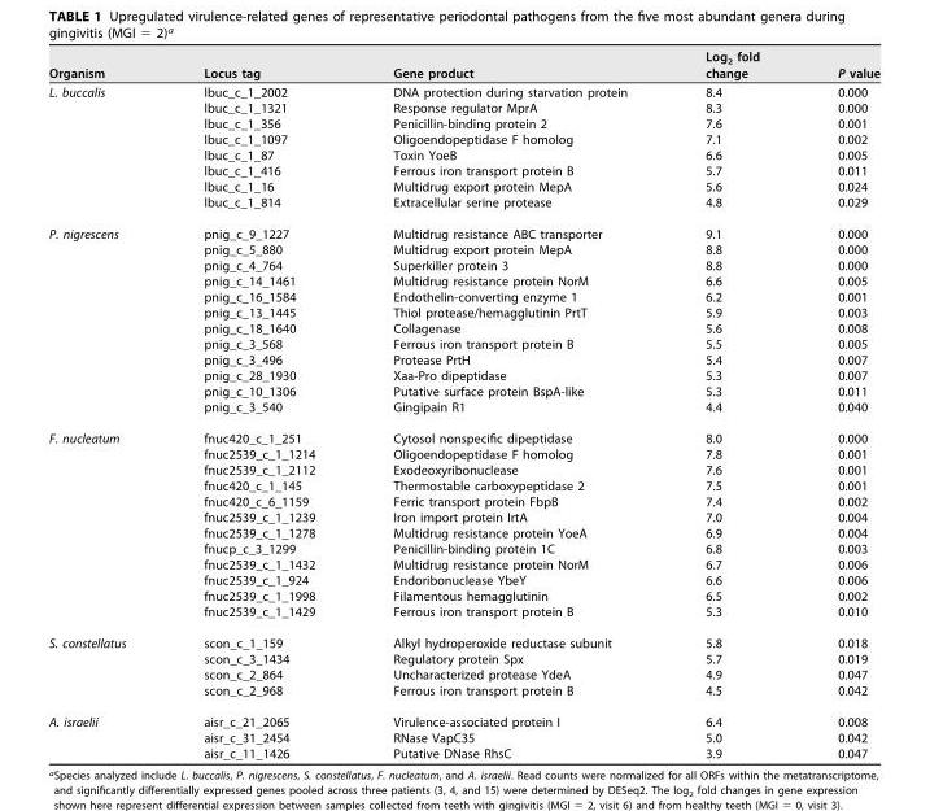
<table><thead><tr><td>Organism</td><td>Locus tag</td><td>Gene product</td><td>Log<sub>2</sub> fold change</td><td>P value</td></tr></thead><tbody><tr><td rowspan="8">L. buccalis</td><td>lbuc_c_1_2002</td><td>DNA protection during starvation protein</td><td>8.4</td><td>0.000</td></tr><tr><td>lbuc_c_1_1321</td><td>Response regulator MprA</td><td>8.3</td><td>0.000</td></tr><tr><td>lbuc_c_1_356</td><td>Penicillin-binding protein 2</td><td>7.6</td><td>0.001</td></tr><tr><td>lbuc_c_1_1097</td><td>Oligoendopeptidase F homolog</td><td>7.1</td><td>0.002</td></tr><tr><td>lbuc_c_1_87</td><td>Toxin YoeB</td><td>6.6</td><td>0.005</td></tr><tr><td>lbuc_c_1_416</td><td>Ferrous iron transport protein B</td><td>5.7</td><td>0.011</td></tr><tr><td>lbuc_c_1_16</td><td>Multidrug export protein MepA</td><td>5.6</td><td>0.024</td></tr><tr><td>lbuc_c_1_814</td><td>Extracellular serine protease</td><td>4.8</td><td>0.029</td></tr><tr><td rowspan="12">P. nigrescens</td><td>pnig_c_9_1227</td><td>Multidrug resistance ABC transporter</td><td>9.1</td><td>0.000</td></tr><tr><td>pnig_c_5_880</td><td>Multidrug export protein MepA</td><td>8.8</td><td>0.000</td></tr><tr><td>pnig_c_4_764</td><td>Superkiller protein 3</td><td>8.8</td><td>0.000</td></tr><tr><td>pnig_c_14_1461</td><td>Multidrug resistance protein NorM</td><td>6.6</td><td>0.005</td></tr><tr><td>pnig_c_16_1584</td><td>Endothelin-converting enzyme 1</td><td>6.2</td><td>0.001</td></tr><tr><td>pnig_c_13_1445</td><td>Thiol protease/hemagglutinin PrtT</td><td>5.9</td><td>0.003</td></tr><tr><td>pnig_c_18_1640</td><td>Collagenase</td><td>5.6</td><td>0.008</td></tr><tr><td>pnig_c_3_568</td><td>Ferrous iron transport protein B</td><td>5.5</td><td>0.005</td></tr><tr><td>pnig_c_3_496</td><td>Protease PrtH</td><td>5.4</td><td>0.007</td></tr><tr><td>pnig_c_28_1930</td><td>Xaa-Pro dipeptidase</td><td>5.3</td><td>0.007</td></tr><tr><td>pnig_c_10_1306</td><td>Putative surface protein BspA-like</td><td>5.3</td><td>0.011</td></tr><tr><td>pnig_c_3_540</td><td>Gingipain R1</td><td>4.4</td><td>0.040</td></tr><tr><td rowspan="12">F. nucleatum</td><td>fnuc420_c_1_251</td><td>Cytosol nonspecific dipeptidase</td><td>8.0</td><td>0.000</td></tr><tr><td>fnuc2539_c_1_1214</td><td>Oligoendopeptidase F homolog</td><td>7.8</td><td>0.001</td></tr><tr><td>fnuc2539_c_1_2112</td><td>Exodeoxyribonuclease</td><td>7.6</td><td>0.001</td></tr><tr><td>fnuc420_c_1_145</td><td>Thermostable carboxypeptidase 2</td><td>7.5</td><td>0.001</td></tr><tr><td>fnuc420_c_6_1159</td><td>Ferric transport protein FbpB</td><td>7.4</td><td>0.002</td></tr><tr><td>fnuc2539_c_1_1239</td><td>Iron import protein IrtA</td><td>7.0</td><td>0.004</td></tr><tr><td>fnuc2539_c_1_1278</td><td>Multidrug resistance protein YoeA</td><td>6.9</td><td>0.004</td></tr><tr><td>fnucp_c_3_1299</td><td>Penicillin-binding protein 1C</td><td>6.8</td><td>0.003</td></tr><tr><td>fnuc2539_c_1_1432</td><td>Multidrug resistance protein NorM</td><td>6.7</td><td>0.006</td></tr><tr><td>fnuc2539_c_1_924</td><td>Endoribonuclease YbeY</td><td>6.6</td><td>0.006</td></tr><tr><td>fnuc2539_c_1_1998</td><td>Filamentous hemagglutinin</td><td>6.5</td><td>0.002</td></tr><tr><td>fnuc2539_c_1_1429</td><td>Ferrous iron transport protein B</td><td>5.3</td><td>0.010</td></tr><tr><td rowspan="4">S. constellatus</td><td>scon_c_1_159</td><td>Alkyl hydroperoxide reductase subunit</td><td>5.8</td><td>0.018</td></tr><tr><td>scon_c_3_1434</td><td>Regulatory protein Spx</td><td>5.7</td><td>0.019</td></tr><tr><td>scon_c_2_864</td><td>Uncharacterized protease YdeA</td><td>4.9</td><td>0.047</td></tr><tr><td>scon_c_2_968</td><td>Ferrous iron transport protein B</td><td>4.5</td><td>0.042</td></tr><tr><td rowspan="3">A. israelii</td><td>aisr_c_21_2065</td><td>Virulence-associated protein I</td><td>6.4</td><td>0.008</td></tr><tr><td>aisr_c_31_2454</td><td>RNase VapC35</td><td>5.0</td><td>0.042</td></tr><tr><td>aisr_c_11_1426</td><td>Putative DNase RhsC</td><td>3.9</td><td>0.047</td></tr></tbody></table>